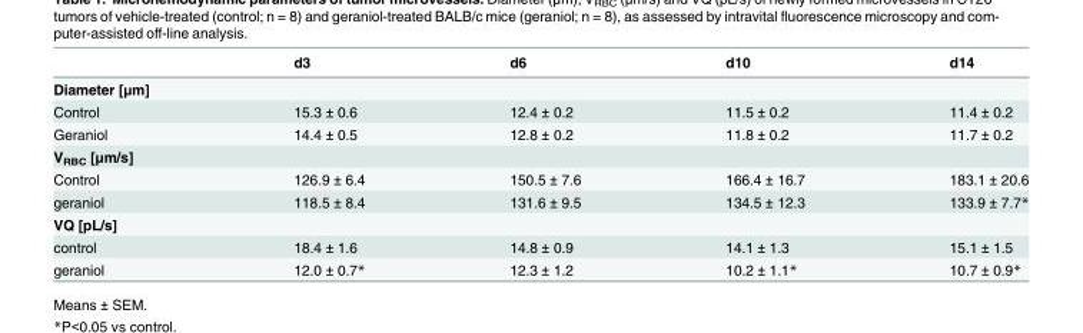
<table><thead><tr><td></td><td>d3</td><td>d6</td><td>d10</td><td>d14</td></tr></thead><tbody><tr><td colspan="5">Diameter [μm]</td></tr><tr><td>Control</td><td>15.3 ± 0.6</td><td>12.4 ± 0.2</td><td>11.5 ± 0.2</td><td>11.4 ± 0.2</td></tr><tr><td>Geraniol</td><td>14.4 ± 0.5</td><td>12.8 ± 0.2</td><td>11.8 ± 0.2</td><td>11.7 ± 0.2</td></tr><tr><td colspan="5">V<sub>RBC</sub> [μm/s]</td></tr><tr><td>Control</td><td>126.9 ± 6.4</td><td>150.5 ± 7.6</td><td>166.4 ± 16.7</td><td>183.1 ± 20.6</td></tr><tr><td>geraniol</td><td>118.5 ± 8.4</td><td>131.6 ± 9.5</td><td>134.5 ± 12.3</td><td>133.9 ± 7.7*</td></tr><tr><td colspan="5">VQ [pL/s]</td></tr><tr><td>control</td><td>18.4 ± 1.6</td><td>14.8 ± 0.9</td><td>14.1 ± 1.3</td><td>15.1 ± 1.5</td></tr><tr><td>geraniol</td><td>12.0 ± 0.7*</td><td>12.3 ± 1.2</td><td>10.2 ± 1.1*</td><td>10.7 ± 0.9*</td></tr></tbody></table>